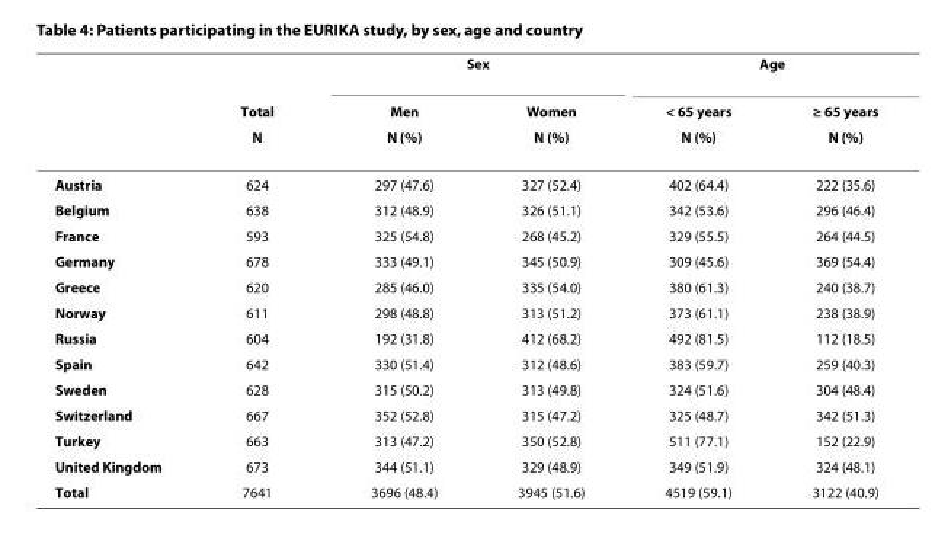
<table><thead><tr><td rowspan="3"></td><td rowspan="3">Total N</td><td colspan="2">Sex</td><td colspan="2">Age</td></tr><tr><td rowspan="2">Men N (%)</td><td rowspan="2">Women N (%)</td><td rowspan="2">&lt; 65 years N (%)</td><td rowspan="2">≥ 65 years N (%)</td></tr><tr></tr></thead><tbody><tr><td>Austria</td><td>624</td><td>297 (47.6)</td><td>327 (52.4)</td><td>402 (64.4)</td><td>222 (35.6)</td></tr><tr><td>Belgium</td><td>638</td><td>312 (48.9)</td><td>326 (51.1)</td><td>342 (53.6)</td><td>296 (46.4)</td></tr><tr><td>France</td><td>593</td><td>325 (54.8)</td><td>268 (45.2)</td><td>329 (55.5)</td><td>264 (44.5)</td></tr><tr><td>Germany</td><td>678</td><td>333 (49.1)</td><td>345 (50.9)</td><td>309 (45.6)</td><td>369 (54.4)</td></tr><tr><td>Greece</td><td>620</td><td>285 (46.0)</td><td>335 (54.0)</td><td>380 (61.3)</td><td>240 (38.7)</td></tr><tr><td>Norway</td><td>611</td><td>298 (48.8)</td><td>313 (51.2)</td><td>373 (61.1)</td><td>238 (38.9)</td></tr><tr><td>Russia</td><td>604</td><td>192 (31.8)</td><td>412 (68.2)</td><td>492 (81.5)</td><td>112 (18.5)</td></tr><tr><td>Spain</td><td>642</td><td>330 (51.4)</td><td>312 (48.6)</td><td>383 (59.7)</td><td>259 (40.3)</td></tr><tr><td>Sweden</td><td>628</td><td>315 (50.2)</td><td>313 (49.8)</td><td>324 (51.6)</td><td>304 (48.4)</td></tr><tr><td>Switzerland</td><td>667</td><td>352 (52.8)</td><td>315 (47.2)</td><td>325 (48.7)</td><td>342 (51.3)</td></tr><tr><td>Turkey</td><td>663</td><td>313 (47.2)</td><td>350 (52.8)</td><td>511 (77.1)</td><td>152 (22.9)</td></tr><tr><td>United Kingdom</td><td>673</td><td>344 (51.1)</td><td>329 (48.9)</td><td>349 (51.9)</td><td>324 (48.1)</td></tr><tr><td>Total</td><td>7641</td><td>3696 (48.4)</td><td>3945 (51.6)</td><td>4519 (59.1)</td><td>3122 (40.9)</td></tr></tbody></table>